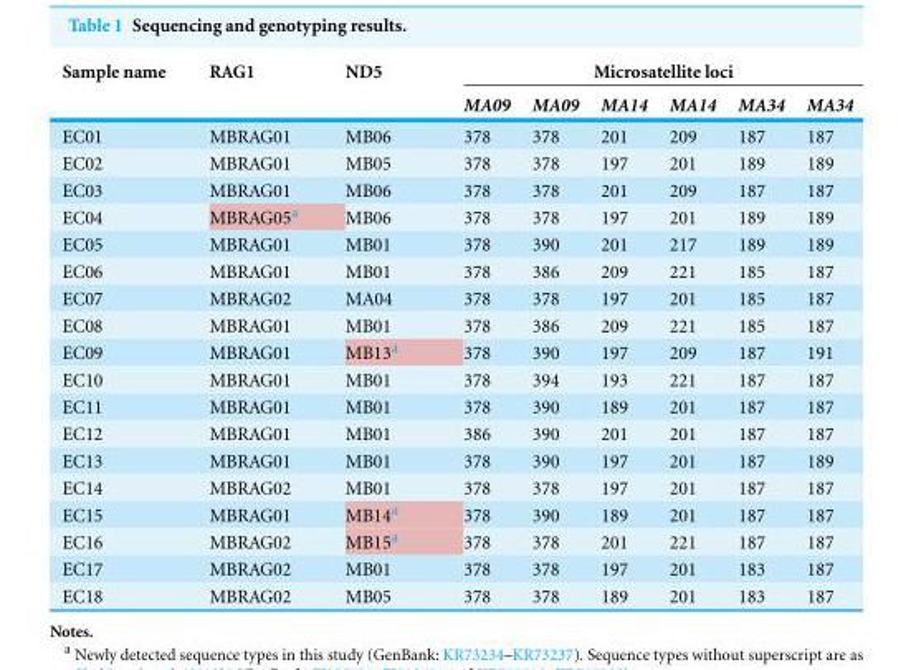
<table><thead><tr><td rowspan="2">Sample name</td><td rowspan="2">RAG1</td><td rowspan="2">ND5</td><td colspan="6">Microsatellite loci</td></tr><tr><td>MA09</td><td>MA09</td><td>MA14</td><td>MA14</td><td>MA34</td><td>MA34</td></tr></thead><tbody><tr><td>EC01</td><td>MBRAG01</td><td>MB06</td><td>378</td><td>378</td><td>201</td><td>209</td><td>187</td><td>187</td></tr><tr><td>EC02</td><td>MBRAG01</td><td>MB05</td><td>378</td><td>378</td><td>197</td><td>201</td><td>189</td><td>189</td></tr><tr><td>EC03</td><td>MBRAG01</td><td>MB06</td><td>378</td><td>378</td><td>201</td><td>209</td><td>187</td><td>187</td></tr><tr><td>EC04</td><td>MBRAG05<sup>a</sup></td><td>MB06</td><td>378</td><td>378</td><td>197</td><td>201</td><td>189</td><td>189</td></tr><tr><td>EC05</td><td>MBRAG01</td><td>MB01</td><td>378</td><td>390</td><td>201</td><td>217</td><td>189</td><td>189</td></tr><tr><td>EC06</td><td>MBRAG01</td><td>MB01</td><td>378</td><td>386</td><td>209</td><td>221</td><td>185</td><td>187</td></tr><tr><td>EC07</td><td>MBRAG02</td><td>MA04</td><td>378</td><td>378</td><td>197</td><td>201</td><td>185</td><td>187</td></tr><tr><td>EC08</td><td>MBRAG01</td><td>MB01</td><td>378</td><td>386</td><td>209</td><td>221</td><td>185</td><td>187</td></tr><tr><td>EC09</td><td>MBRAG01</td><td>MB13<sup>a</sup></td><td>378</td><td>390</td><td>197</td><td>209</td><td>187</td><td>191</td></tr><tr><td>EC10</td><td>MBRAG01</td><td>MB01</td><td>378</td><td>394</td><td>193</td><td>221</td><td>187</td><td>187</td></tr><tr><td>EC11</td><td>MBRAG01</td><td>MB01</td><td>378</td><td>390</td><td>189</td><td>201</td><td>187</td><td>187</td></tr><tr><td>EC12</td><td>MBRAG01</td><td>MB01</td><td>386</td><td>390</td><td>201</td><td>201</td><td>187</td><td>187</td></tr><tr><td>EC13</td><td>MBRAG01</td><td>MB01</td><td>378</td><td>390</td><td>197</td><td>201</td><td>187</td><td>189</td></tr><tr><td>EC14</td><td>MBRAG02</td><td>MB01</td><td>378</td><td>378</td><td>197</td><td>201</td><td>187</td><td>187</td></tr><tr><td>EC15</td><td>MBRAG01</td><td>MB14<sup>a</sup></td><td>378</td><td>390</td><td>189</td><td>201</td><td>187</td><td>187</td></tr><tr><td>EC16</td><td>MBRAG02</td><td>MB15<sup>a</sup></td><td>378</td><td>378</td><td>201</td><td>221</td><td>187</td><td>187</td></tr><tr><td>EC17</td><td>MBRAG02</td><td>MB01</td><td>378</td><td>378</td><td>197</td><td>201</td><td>183</td><td>187</td></tr><tr><td>EC18</td><td>MBRAG02</td><td>MB05</td><td>378</td><td>378</td><td>189</td><td>201</td><td>183</td><td>187</td></tr></tbody></table>